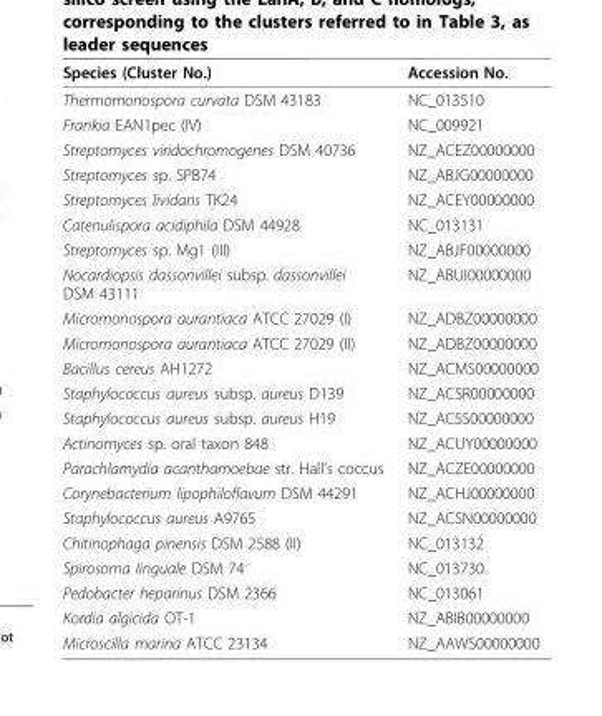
<table><thead><tr><td>Species (Cluster No.)</td><td>Accession No.</td></tr></thead><tbody><tr><td>Thermomonospora curvata DSM 43183</td><td>NC_013510</td></tr><tr><td>Frankia EAN1pec (IV)</td><td>NC_009921</td></tr><tr><td>Streptomyces viridochromogenes DSM 40736</td><td>NZ_ACEZ00000000</td></tr><tr><td>Streptomyces sp. SPB74</td><td>NZ_ABJG00000000</td></tr><tr><td>Streptomyces lividans TK24</td><td>NZ_ACEY00000000</td></tr><tr><td>Catenulispora acidiphila DSM 44928</td><td>NC_013131</td></tr><tr><td>Streptomyces sp. Mg1 (III)</td><td>NZ_ABJF00000000</td></tr><tr><td>Nocardiopsis dassonvillei subsp. dassonvillei DSM 43111</td><td>NZ_ABUI00000000</td></tr><tr><td>Micromonospora aurantiaca ATCC 27029 (I)</td><td>NZ_ADBZ00000000</td></tr><tr><td>Micromonospora aurantiaca ATCC 27029 (II)</td><td>NZ_ADBZ00000000</td></tr><tr><td>Bacillus cereus AH1272</td><td>NZ_ACMS00000000</td></tr><tr><td>Staphylococcus aureus subsp. aureus D139</td><td>NZ_ACSR00000000</td></tr><tr><td>Staphylococcus aureus subsp. aureus H19</td><td>NZ_ACSS00000000</td></tr><tr><td>Actinomyces sp. oral taxon 848</td><td>NZ_ACUY00000000</td></tr><tr><td>Parachlamydia acanthamoebae str. Hall’s coccus</td><td>NZ_ACZE00000000</td></tr><tr><td>Corynebacterium lipophiloflavum DSM 44291</td><td>NZ_ACHJ00000000</td></tr><tr><td>Staphylococcus aureus A9765</td><td>NZ_ACSN00000000</td></tr><tr><td>Chitinophaga pinensis DSM 2588 (II)</td><td>NC_013132</td></tr><tr><td>Spirosoma linguale DSM 74</td><td>NC_013730</td></tr><tr><td>Pedobacter heparinus DSM 2366</td><td>NC_013061</td></tr><tr><td>Kordia algicida OT-1</td><td>NZ_ABIB00000000</td></tr><tr><td>Microscilla marina ATCC 23134</td><td>NZ_AAWS00000000</td></tr></tbody></table>